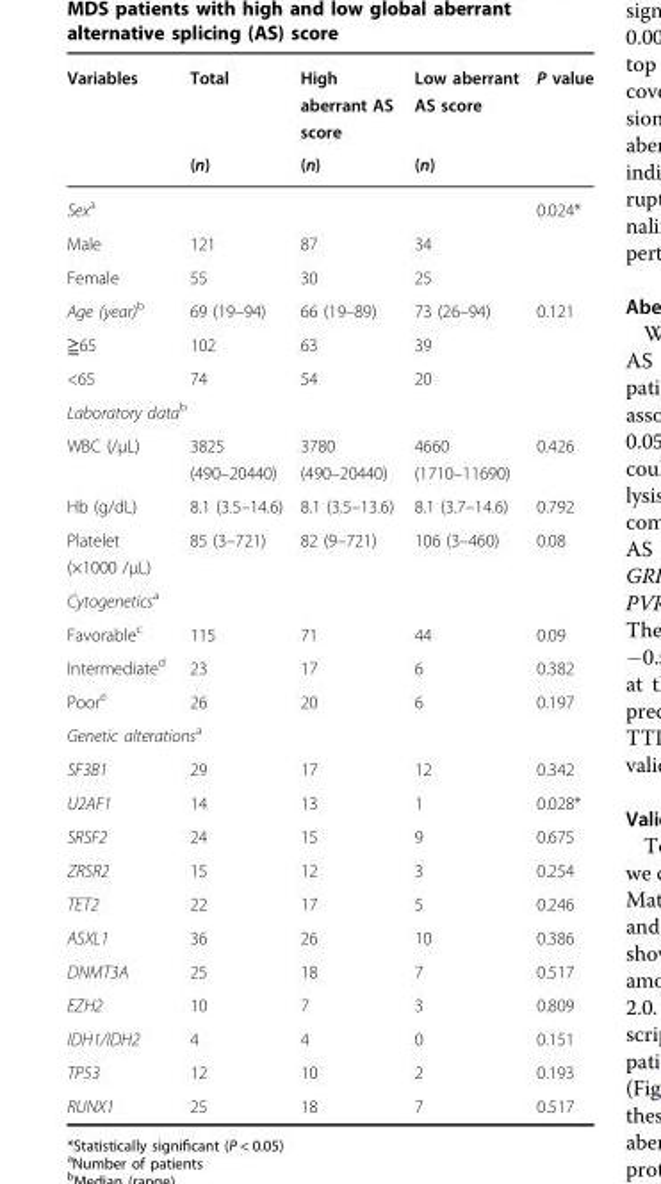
<table><thead><tr><td rowspan="2">Variables</td><td rowspan="2">Total (n)</td><td rowspan="2">High aberrant AS score (n)</td><td rowspan="2">Low aberrant AS score (n)</td><td rowspan="2">P value</td></tr><tr></tr></thead><tbody><tr><td>Sex<sup>a</sup></td><td></td><td></td><td></td><td>0.024*</td></tr><tr><td>Male</td><td>121</td><td>87</td><td>34</td><td></td></tr><tr><td>Female</td><td>55</td><td>30</td><td>25</td><td></td></tr><tr><td>Age (year)<sup>b</sup></td><td>69 (19–94)</td><td>66 (19–89)</td><td>73 (26–94)</td><td>0.121</td></tr><tr><td>≧65</td><td>102</td><td>63</td><td>39</td><td></td></tr><tr><td>&lt;65</td><td>74</td><td>54</td><td>20</td><td></td></tr><tr><td colspan="5">Laboratory data<sup>b</sup></td></tr><tr><td>WBC (/μL)</td><td>3825 (490–20440)</td><td>3780 (490–20440)</td><td>4660 (1710–11690)</td><td>0.426</td></tr><tr><td>Hb (g/dL)</td><td>8.1 (3.5–14.6)</td><td>8.1 (3.5–13.6)</td><td>8.1 (3.7–14.6)</td><td>0.792</td></tr><tr><td>Platelet (×1000 /μL)</td><td>85 (3–721)</td><td>82 (9–721)</td><td>106 (3–460)</td><td>0.08</td></tr><tr><td colspan="5">Cytogenetics<sup>a</sup></td></tr><tr><td>Favorable<sup>c</sup></td><td>115</td><td>71</td><td>44</td><td>0.09</td></tr><tr><td>Intermediate<sup>d</sup></td><td>23</td><td>17</td><td>6</td><td>0.382</td></tr><tr><td>Poor<sup>e</sup></td><td>26</td><td>20</td><td>6</td><td>0.197</td></tr><tr><td colspan="5">Genetic alterations<sup>a</sup></td></tr><tr><td>SF3B1</td><td>29</td><td>17</td><td>12</td><td>0.342</td></tr><tr><td>U2AF1</td><td>14</td><td>13</td><td>1</td><td>0.028*</td></tr><tr><td>SRSF2</td><td>24</td><td>15</td><td>9</td><td>0.675</td></tr><tr><td>ZRSR2</td><td>15</td><td>12</td><td>3</td><td>0.254</td></tr><tr><td>TET2</td><td>22</td><td>17</td><td>5</td><td>0.246</td></tr><tr><td>ASXL1</td><td>36</td><td>26</td><td>10</td><td>0.386</td></tr><tr><td>DNMT3A</td><td>25</td><td>18</td><td>7</td><td>0.517</td></tr><tr><td>EZH2</td><td>10</td><td>7</td><td>3</td><td>0.809</td></tr><tr><td>IDH1/IDH2</td><td>4</td><td>4</td><td>0</td><td>0.151</td></tr><tr><td>TP53</td><td>12</td><td>10</td><td>2</td><td>0.193</td></tr><tr><td>RUNX1</td><td>25</td><td>18</td><td>7</td><td>0.517</td></tr></tbody></table>